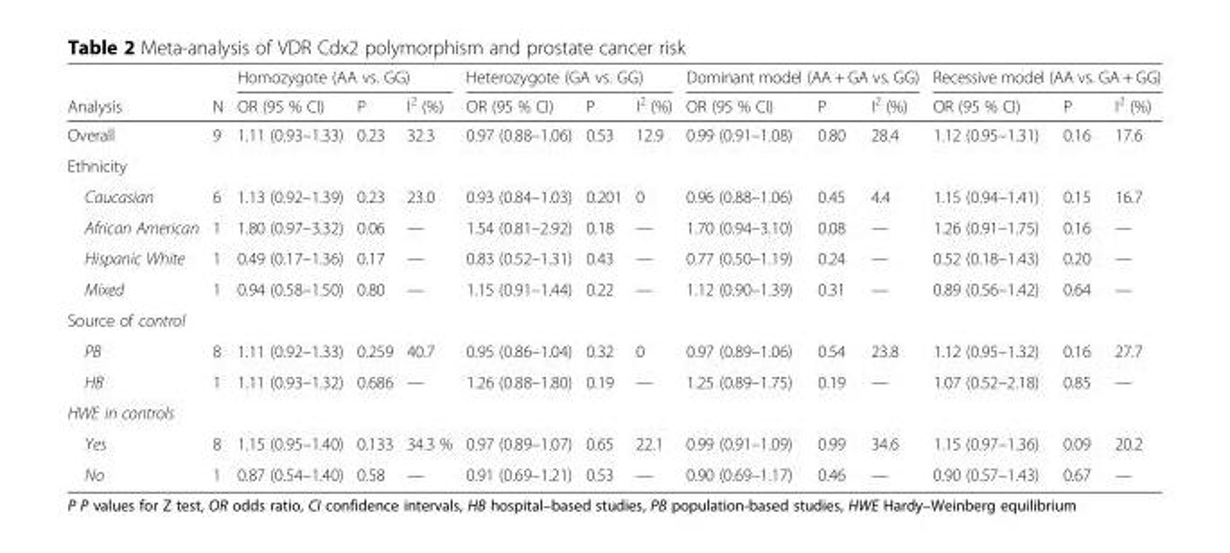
<table><thead><tr><td rowspan="2">Analysis</td><td rowspan="2">N</td><td colspan="3">Homozygote (AA vs. GG)</td><td colspan="3">Heterozygote (GA vs. GG)</td><td colspan="3">Dominant model (AA + GA vs. GG)</td><td colspan="3">Recessive model (AA vs. GA + GG)</td></tr><tr><td>OR (95 % CI)</td><td>P</td><td>I<sup>2</sup> (%)</td><td>OR (95 % CI)</td><td>P</td><td>I<sup>2</sup> (%)</td><td>OR (95 % CI)</td><td>P</td><td>I<sup>2</sup> (%)</td><td>OR (95 % CI)</td><td>P</td><td>I<sup>2</sup> (%)</td></tr></thead><tbody><tr><td>Overall</td><td>9</td><td>1.11 (0.93–1.33)</td><td>0.23</td><td>32.3</td><td>0.97 (0.88–1.06)</td><td>0.53</td><td>12.9</td><td>0.99 (0.91–1.08)</td><td>0.80</td><td>28.4</td><td>1.12 (0.95–1.31)</td><td>0.16</td><td>17.6</td></tr><tr><td colspan="14">Ethnicity</td></tr><tr><td>Caucasian</td><td>6</td><td>1.13 (0.92–1.39)</td><td>0.23</td><td>23.0</td><td>0.93 (0.84–1.03)</td><td>0.201</td><td>0</td><td>0.96 (0.88–1.06)</td><td>0.45</td><td>4.4</td><td>1.15 (0.94–1.41)</td><td>0.15</td><td>16.7</td></tr><tr><td>African American</td><td>1</td><td>1.80 (0.97–3.32)</td><td>0.06</td><td>—</td><td>1.54 (0.81–2.92)</td><td>0.18</td><td>—</td><td>1.70 (0.94–3.10)</td><td>0.08</td><td>—</td><td>1.26 (0.91–1.75)</td><td>0.16</td><td>—</td></tr><tr><td>Hispanic White</td><td>1</td><td>0.49 (0.17–1.36)</td><td>0.17</td><td>—</td><td>0.83 (0.52–1.31)</td><td>0.43</td><td>—</td><td>0.77 (0.50–1.19)</td><td>0.24</td><td>—</td><td>0.52 (0.18–1.43)</td><td>0.20</td><td>—</td></tr><tr><td>Mixed</td><td>1</td><td>0.94 (0.58–1.50)</td><td>0.80</td><td>—</td><td>1.15 (0.91–1.44)</td><td>0.22</td><td>—</td><td>1.12 (0.90–1.39)</td><td>0.31</td><td>—</td><td>0.89 (0.56–1.42)</td><td>0.64</td><td>—</td></tr><tr><td colspan="14">Source of control</td></tr><tr><td>PB</td><td>8</td><td>1.11 (0.92–1.33)</td><td>0.259</td><td>40.7</td><td>0.95 (0.86–1.04)</td><td>0.32</td><td>0</td><td>0.97 (0.89–1.06)</td><td>0.54</td><td>23.8</td><td>1.12 (0.95–1.32)</td><td>0.16</td><td>27.7</td></tr><tr><td>HB</td><td>1</td><td>1.11 (0.93–1.32)</td><td>0.686</td><td>—</td><td>1.26 (0.88–1.80)</td><td>0.19</td><td>—</td><td>1.25 (0.89–1.75)</td><td>0.19</td><td>—</td><td>1.07 (0.52–2.18)</td><td>0.85</td><td>—</td></tr><tr><td colspan="14">HWE in controls</td></tr><tr><td>Yes</td><td>8</td><td>1.15 (0.95–1.40)</td><td>0.133</td><td>34.3 %</td><td>0.97 (0.89–1.07)</td><td>0.65</td><td>22.1</td><td>0.99 (0.91–1.09)</td><td>0.99</td><td>34.6</td><td>1.15 (0.97–1.36)</td><td>0.09</td><td>20.2</td></tr><tr><td>No</td><td>1</td><td>0.87 (0.54–1.40)</td><td>0.58</td><td>—</td><td>0.91 (0.69–1.21)</td><td>0.53</td><td>—</td><td>0.90 (0.69–1.17)</td><td>0.46</td><td>—</td><td>0.90 (0.57–1.43)</td><td>0.67</td><td>—</td></tr></tbody></table>